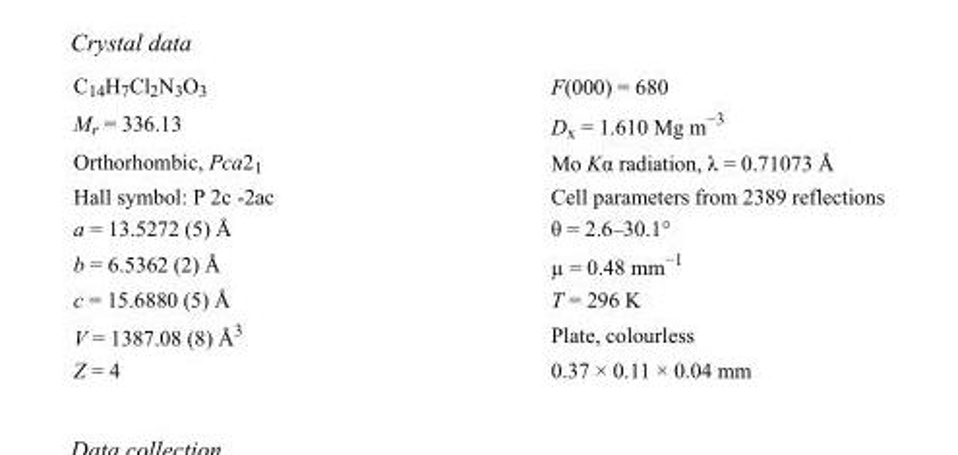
<table><tbody><tr><td>C<sub>14</sub>H<sub>7</sub>Cl<sub>2</sub>N<sub>3</sub>O<sub>3</sub></td><td>F(000) = 680</td></tr><tr><td>M<sub>r</sub> = 336.13</td><td>D<sub>x</sub> = 1.610 Mg m<sup>−3</sup></td></tr><tr><td>Orthorhombic, Pca2<sub>1</sub></td><td>Mo Kα radiation, λ = 0.71073 Å</td></tr><tr><td>Hall symbol: P 2c -2ac</td><td>Cell parameters from 2389 reflections</td></tr><tr><td>a = 13.5272 (5) Å</td><td>θ = 2.6–30.1°</td></tr><tr><td>b = 6.5362 (2) Å</td><td>µ = 0.48 mm<sup>−1</sup></td></tr><tr><td>c = 15.6880 (5) Å</td><td>T = 296 K</td></tr><tr><td>V = 1387.08 (8) Å<sup>3</sup></td><td>Plate, colourless</td></tr><tr><td>Z = 4</td><td>0.37 × 0.11 × 0.04 mm</td></tr></tbody></table>